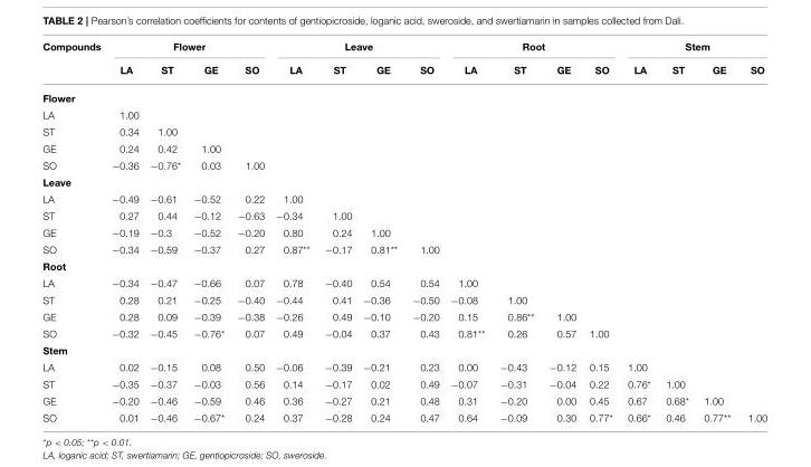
<table><thead><tr><td rowspan="2">Compounds</td><td colspan="4">Flower</td><td colspan="4">Leave</td><td colspan="4">Root</td><td colspan="4">Stem</td></tr><tr><td>LA</td><td>ST</td><td>GE</td><td>SO</td><td>LA</td><td>ST</td><td>GE</td><td>SO</td><td>LA</td><td>ST</td><td>GE</td><td>SO</td><td>LA</td><td>ST</td><td>GE</td><td>SO</td></tr></thead><tbody><tr><td colspan="17">Flower</td></tr><tr><td>LA</td><td>1.00</td><td></td><td></td><td></td><td></td><td></td><td></td><td></td><td></td><td></td><td></td><td></td><td></td><td></td><td></td><td></td></tr><tr><td>ST</td><td>0.34</td><td>1.00</td><td></td><td></td><td></td><td></td><td></td><td></td><td></td><td></td><td></td><td></td><td></td><td></td><td></td><td></td></tr><tr><td>GE</td><td>0.24</td><td>0.42</td><td>1.00</td><td></td><td></td><td></td><td></td><td></td><td></td><td></td><td></td><td></td><td></td><td></td><td></td><td></td></tr><tr><td>SO</td><td>−0.36</td><td>−0.76*</td><td>0.03</td><td>1.00</td><td></td><td></td><td></td><td></td><td></td><td></td><td></td><td></td><td></td><td></td><td></td><td></td></tr><tr><td colspan="17">Leave</td></tr><tr><td>LA</td><td>−0.49</td><td>−0.61</td><td>−0.52</td><td>0.22</td><td>1.00</td><td></td><td></td><td></td><td></td><td></td><td></td><td></td><td></td><td></td><td></td><td></td></tr><tr><td>ST</td><td>0.27</td><td>0.44</td><td>−0.12</td><td>−0.63</td><td>−0.34</td><td>1.00</td><td></td><td></td><td></td><td></td><td></td><td></td><td></td><td></td><td></td><td></td></tr><tr><td>GE</td><td>−0.19</td><td>−0.3</td><td>−0.52</td><td>−0.20</td><td>0.80</td><td>0.24</td><td>1.00</td><td></td><td></td><td></td><td></td><td></td><td></td><td></td><td></td><td></td></tr><tr><td>SO</td><td>−0.34</td><td>−0.59</td><td>−0.37</td><td>0.27</td><td>0.87**</td><td>−0.17</td><td>0.81**</td><td>1.00</td><td></td><td></td><td></td><td></td><td></td><td></td><td></td><td></td></tr><tr><td colspan="17">Root</td></tr><tr><td>LA</td><td>−0.34</td><td>−0.47</td><td>−0.66</td><td>0.07</td><td>0.78</td><td>−0.40</td><td>0.54</td><td>0.54</td><td>1.00</td><td></td><td></td><td></td><td></td><td></td><td></td><td></td></tr><tr><td>ST</td><td>0.28</td><td>0.21</td><td>−0.25</td><td>−0.40</td><td>−0.44</td><td>0.41</td><td>−0.36</td><td>−0.50</td><td>−0.08</td><td>1.00</td><td></td><td></td><td></td><td></td><td></td><td></td></tr><tr><td>GE</td><td>0.28</td><td>0.09</td><td>−0.39</td><td>−0.38</td><td>−0.26</td><td>0.49</td><td>−0.10</td><td>−0.20</td><td>0.15</td><td>0.86**</td><td>1.00</td><td></td><td></td><td></td><td></td><td></td></tr><tr><td>SO</td><td>−0.32</td><td>−0.45</td><td>−0.76*</td><td>0.07</td><td>0.49</td><td>−0.04</td><td>0.37</td><td>0.43</td><td>0.81**</td><td>0.26</td><td>0.57</td><td>1.00</td><td></td><td></td><td></td><td></td></tr><tr><td colspan="17">Stem</td></tr><tr><td>LA</td><td>0.02</td><td>−0.15</td><td>0.08</td><td>0.50</td><td>−0.06</td><td>−0.39</td><td>−0.21</td><td>0.23</td><td>0.00</td><td>−0.43</td><td>−0.12</td><td>0.15</td><td>1.00</td><td></td><td></td><td></td></tr><tr><td>ST</td><td>−0.35</td><td>−0.37</td><td>−0.03</td><td>0.56</td><td>0.14</td><td>−0.17</td><td>0.02</td><td>0.49</td><td>−0.07</td><td>−0.31</td><td>−0.04</td><td>0.22</td><td>0.76*</td><td>1.00</td><td></td><td></td></tr><tr><td>GE</td><td>−0.20</td><td>−0.46</td><td>−0.59</td><td>0.46</td><td>0.36</td><td>−0.27</td><td>0.21</td><td>0.48</td><td>0.31</td><td>−0.20</td><td>0.00</td><td>0.45</td><td>0.67</td><td>0.68*</td><td>1.00</td><td></td></tr><tr><td>SO</td><td>0.01</td><td>−0.46</td><td>−0.67*</td><td>0.24</td><td>0.37</td><td>−0.28</td><td>0.24</td><td>0.47</td><td>0.64</td><td>−0.09</td><td>0.30</td><td>0.77*</td><td>0.66*</td><td>0.46</td><td>0.77**</td><td>1.00</td></tr></tbody></table>